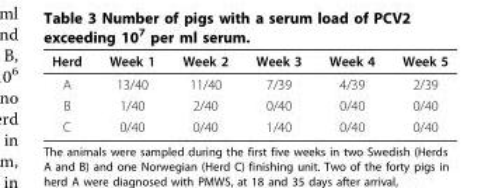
<table><thead><tr><td>Herd</td><td>Week 1</td><td>Week 2</td><td>Week 3</td><td>Week 4</td><td>Week 5</td></tr></thead><tbody><tr><td>A</td><td>13/40</td><td>11/40</td><td>7/39</td><td>4/39</td><td>2/39</td></tr><tr><td>B</td><td>1/40</td><td>2/40</td><td>0/40</td><td>0/40</td><td>0/40</td></tr><tr><td>C</td><td>0/40</td><td>0/40</td><td>1/40</td><td>0/40</td><td>0/40</td></tr></tbody></table>